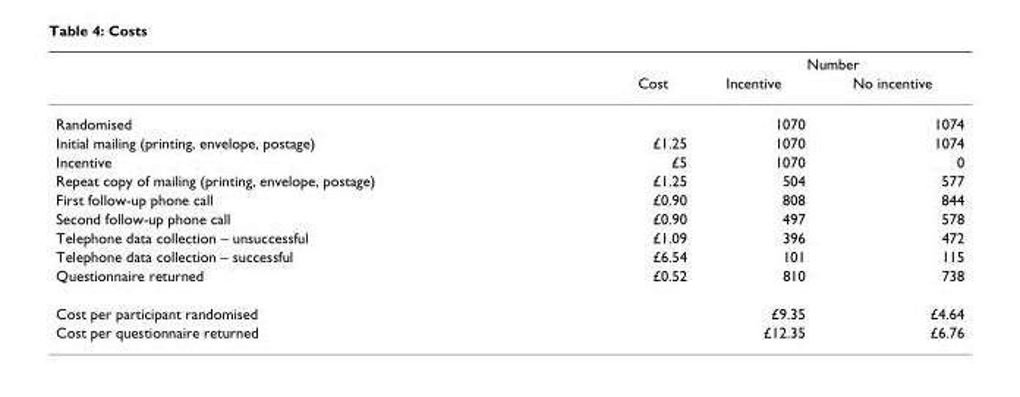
<table><thead><tr><td rowspan="2"></td><td rowspan="2">Cost</td><td colspan="2">Number</td></tr><tr><td>Incentive</td><td>No incentive</td></tr></thead><tbody><tr><td>Randomised</td><td></td><td>1070</td><td>1074</td></tr><tr><td>Initial mailing (printing, envelope, postage)</td><td>£1.25</td><td>1070</td><td>1074</td></tr><tr><td>Incentive</td><td>£5</td><td>1070</td><td>0</td></tr><tr><td>Repeat copy of mailing (printing, envelope, postage)</td><td>£1.25</td><td>504</td><td>577</td></tr><tr><td>First follow-up phone call</td><td>£0.90</td><td>808</td><td>844</td></tr><tr><td>Second follow-up phone call</td><td>£0.90</td><td>497</td><td>578</td></tr><tr><td>Telephone data collection – unsuccessful</td><td>£1.09</td><td>396</td><td>472</td></tr><tr><td>Telephone data collection – successful</td><td>£6.54</td><td>101</td><td>115</td></tr><tr><td>Questionnaire returned</td><td>£0.52</td><td>810</td><td>738</td></tr><tr><td>Cost per participant randomised</td><td></td><td>£9.35</td><td>£4.64</td></tr><tr><td>Cost per questionnaire returned</td><td></td><td>£12.35</td><td>£6.76</td></tr></tbody></table>